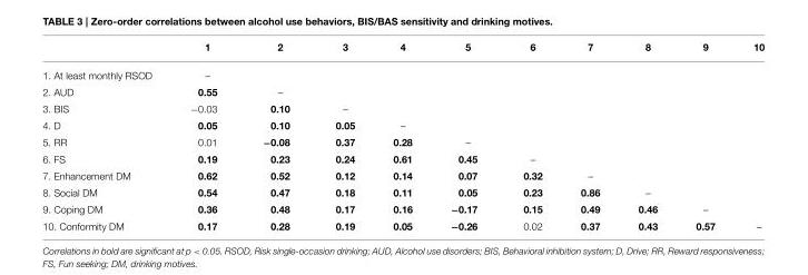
<table><thead><tr><td></td><td>1</td><td>2</td><td>3</td><td>4</td><td>5</td><td>6</td><td>7</td><td>8</td><td>9</td><td>10</td></tr></thead><tbody><tr><td>1. At least monthly RSOD</td><td>–</td><td></td><td></td><td></td><td></td><td></td><td></td><td></td><td></td><td></td></tr><tr><td>2. AUD</td><td>0.55</td><td>–</td><td></td><td></td><td></td><td></td><td></td><td></td><td></td><td></td></tr><tr><td>3. BIS</td><td>−0.03</td><td>0.10</td><td>–</td><td></td><td></td><td></td><td></td><td></td><td></td><td></td></tr><tr><td>4. D</td><td>0.05</td><td>0.10</td><td>0.05</td><td>–</td><td></td><td></td><td></td><td></td><td></td><td></td></tr><tr><td>5. RR</td><td>0.01</td><td>−0.08</td><td>0.37</td><td>0.28</td><td>–</td><td></td><td></td><td></td><td></td><td></td></tr><tr><td>6. FS</td><td>0.19</td><td>0.23</td><td>0.24</td><td>0.61</td><td>0.45</td><td>–</td><td></td><td></td><td></td><td></td></tr><tr><td>7. Enhancement DM</td><td>0.62</td><td>0.52</td><td>0.12</td><td>0.14</td><td>0.07</td><td>0.32</td><td>–</td><td></td><td></td><td></td></tr><tr><td>8. Social DM</td><td>0.54</td><td>0.47</td><td>0.18</td><td>0.11</td><td>0.05</td><td>0.23</td><td>0.86</td><td>–</td><td></td><td></td></tr><tr><td>9. Coping DM</td><td>0.36</td><td>0.48</td><td>0.17</td><td>0.16</td><td>−0.17</td><td>0.15</td><td>0.49</td><td>0.46</td><td>–</td><td></td></tr><tr><td>10. Conformity DM</td><td>0.17</td><td>0.28</td><td>0.19</td><td>0.05</td><td>−0.26</td><td>0.02</td><td>0.37</td><td>0.43</td><td>0.57</td><td>–</td></tr></tbody></table>